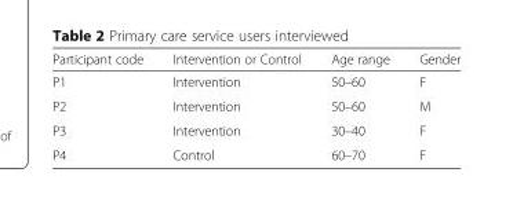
<table><thead><tr><td>Participant code</td><td>Intervention or Control</td><td>Age range</td><td>Gender</td></tr></thead><tbody><tr><td>P1</td><td>Intervention</td><td>50–60</td><td>F</td></tr><tr><td>P2</td><td>Intervention</td><td>50–60</td><td>M</td></tr><tr><td>P3</td><td>Intervention</td><td>30–40</td><td>F</td></tr><tr><td>P4</td><td>Control</td><td>60–70</td><td>F</td></tr></tbody></table>